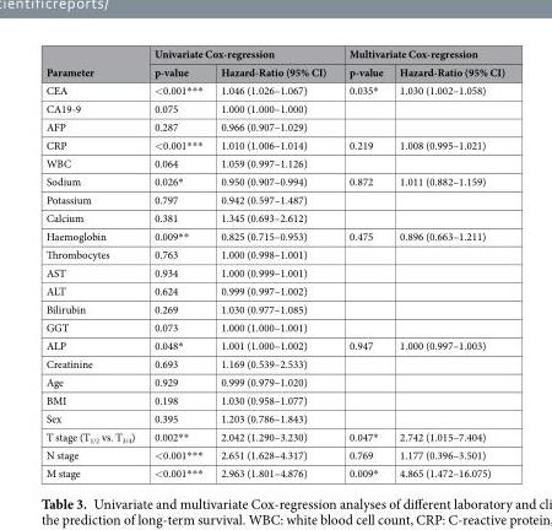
<table><thead><tr><td rowspan="2">Parameter</td><td colspan="2">Univariate Cox-regression</td><td colspan="2">Multivariate Cox-regression</td></tr><tr><td>p-value</td><td>Hazard-Ratio (95% CI)</td><td>p-value</td><td>Hazard-Ratio (95% CI)</td></tr></thead><tbody><tr><td>CEA</td><td>&lt;0.001***</td><td>1.046 (1.026–1.067)</td><td>0.035*</td><td>1.030 (1.002–1.058)</td></tr><tr><td>CA19-9</td><td>0.075</td><td>1.000 (1.000–1.000)</td><td></td><td></td></tr><tr><td>AFP</td><td>0.287</td><td>0.966 (0.907–1.029)</td><td></td><td></td></tr><tr><td>CRP</td><td>&lt;0.001***</td><td>1.010 (1.006–1.014)</td><td>0.219</td><td>1.008 (0.995–1.021)</td></tr><tr><td>WBC</td><td>0.064</td><td>1.059 (0.997–1.126)</td><td></td><td></td></tr><tr><td>Sodium</td><td>0.026*</td><td>0.950 (0.907–0.994)</td><td>0.872</td><td>1.011 (0.882–1.159)</td></tr><tr><td>Potassium</td><td>0.797</td><td>0.942 (0.597–1.487)</td><td></td><td></td></tr><tr><td>Calcium</td><td>0.381</td><td>1.345 (0.693–2.612)</td><td></td><td></td></tr><tr><td>Haemoglobin</td><td>0.009**</td><td>0.825 (0.715–0.953)</td><td>0.475</td><td>0.896 (0.663–1.211)</td></tr><tr><td>Thrombocytes</td><td>0.763</td><td>1.000 (0.998–1.001)</td><td></td><td></td></tr><tr><td>AST</td><td>0.934</td><td>1.000 (0.999–1.001)</td><td></td><td></td></tr><tr><td>ALT</td><td>0.624</td><td>0.999 (0.997–1.002)</td><td></td><td></td></tr><tr><td>Bilirubin</td><td>0.269</td><td>1.030 (0.977–1.085)</td><td></td><td></td></tr><tr><td>GGT</td><td>0.073</td><td>1.000 (1.000–1.001)</td><td></td><td></td></tr><tr><td>ALP</td><td>0.048*</td><td>1.001 (1.000–1.002)</td><td>0.947</td><td>1.000 (0.997–1.003)</td></tr><tr><td>Creatinine</td><td>0.693</td><td>1.169 (0.539–2.533)</td><td></td><td></td></tr><tr><td>Age</td><td>0.929</td><td>0.999 (0.979–1.020)</td><td></td><td></td></tr><tr><td>BMI</td><td>0.198</td><td>1.030 (0.958–1.077)</td><td></td><td></td></tr><tr><td>Sex</td><td>0.395</td><td>1.203 (0.786–1.843)</td><td></td><td></td></tr><tr><td>T stage (T<sub>1/2</sub> vs. T<sub>3/4</sub>)</td><td>0.002**</td><td>2.042 (1.290–3.230)</td><td>0.047*</td><td>2.742 (1.015–7.404)</td></tr><tr><td>N stage</td><td>&lt;0.001***</td><td>2.651 (1.628–4.317)</td><td>0.769</td><td>1.177 (0.396–3.501)</td></tr><tr><td>M stage</td><td>&lt;0.001***</td><td>2.963 (1.801–4.876)</td><td>0.009*</td><td>4.865 (1.472–16.075)</td></tr></tbody></table>